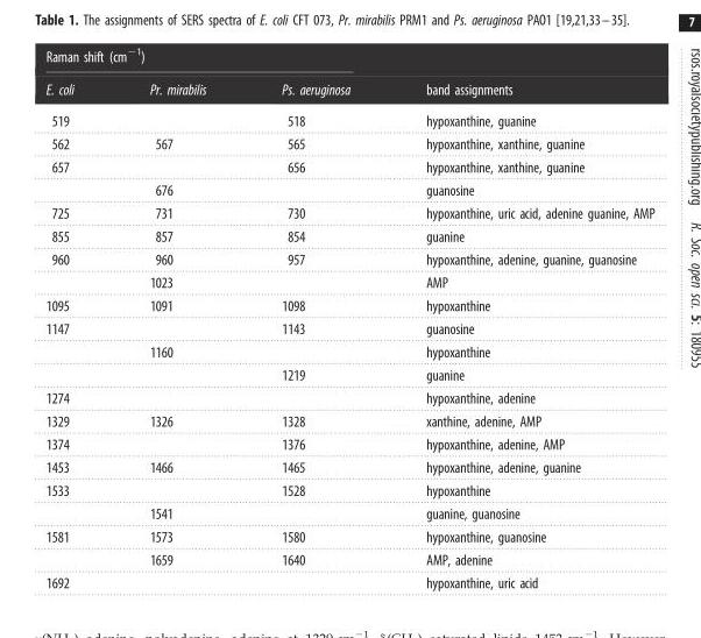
<table><thead><tr><td colspan="3">Raman shift (cm<sup>−1</sup>)</td><td rowspan="2">band assignments</td></tr><tr><td>E. coli</td><td>Pr. mirabilis</td><td>Ps. aeruginosa</td></tr></thead><tbody><tr><td>519</td><td></td><td>518</td><td>hypoxanthine, guanine</td></tr><tr><td>562</td><td>567</td><td>565</td><td>hypoxanthine, xanthine, guanine</td></tr><tr><td rowspan="2">657</td><td></td><td>656</td><td>hypoxanthine, xanthine, guanine</td></tr><tr><td>676</td><td></td><td>guanosine</td></tr><tr><td>725</td><td>731</td><td>730</td><td>hypoxanthine, uric acid, adenine guanine, AMP</td></tr><tr><td>855</td><td>857</td><td>854</td><td>guanine</td></tr><tr><td rowspan="2">960</td><td>960</td><td>957</td><td>hypoxanthine, adenine, guanine, guanosine</td></tr><tr><td>1023</td><td></td><td>AMP</td></tr><tr><td>1095</td><td>1091</td><td>1098</td><td>hypoxanthine</td></tr><tr><td rowspan="3">1147</td><td></td><td>1143</td><td>guanosine</td></tr><tr><td>1160</td><td></td><td>hypoxanthine</td></tr><tr><td></td><td>1219</td><td>guanine</td></tr><tr><td>1274</td><td></td><td></td><td>hypoxanthine, adenine</td></tr><tr><td>1329</td><td>1326</td><td>1328</td><td>xanthine, adenine, AMP</td></tr><tr><td>1374</td><td></td><td>1376</td><td>hypoxanthine, adenine, AMP</td></tr><tr><td>1453</td><td>1466</td><td>1465</td><td>hypoxanthine, adenine, guanine</td></tr><tr><td rowspan="2">1533</td><td></td><td>1528</td><td>hypoxanthine</td></tr><tr><td>1541</td><td></td><td>guanine, guanosine</td></tr><tr><td rowspan="2">1581</td><td>1573</td><td>1580</td><td>hypoxanthine, guanosine</td></tr><tr><td>1659</td><td>1640</td><td>AMP, adenine</td></tr><tr><td>1692</td><td></td><td></td><td>hypoxanthine, uric acid</td></tr></tbody></table>